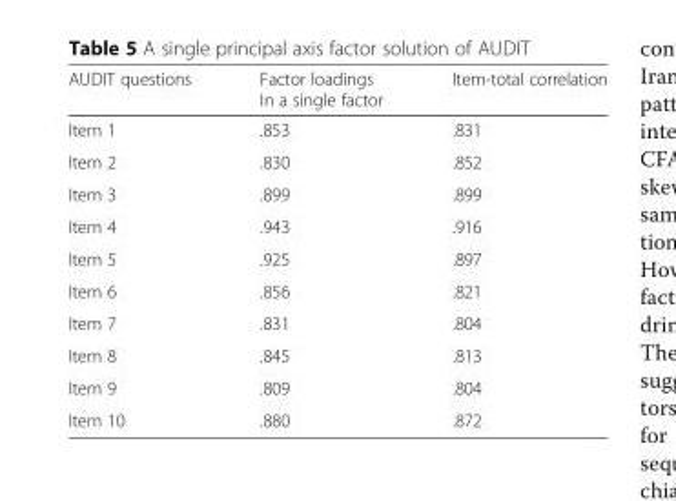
<table><thead><tr><td>AUDIT questions</td><td>Factor loadings In a single factor</td><td>Item-total correlation</td></tr></thead><tbody><tr><td>Item 1</td><td>.853</td><td>.831</td></tr><tr><td>Item 2</td><td>.830</td><td>.852</td></tr><tr><td>Item 3</td><td>.899</td><td>.899</td></tr><tr><td>Item 4</td><td>.943</td><td>.916</td></tr><tr><td>Item 5</td><td>.925</td><td>.897</td></tr><tr><td>Item 6</td><td>.856</td><td>.821</td></tr><tr><td>Item 7</td><td>.831</td><td>.804</td></tr><tr><td>Item 8</td><td>.845</td><td>.813</td></tr><tr><td>Item 9</td><td>.809</td><td>.804</td></tr><tr><td>Item 10</td><td>.880</td><td>.872</td></tr></tbody></table>